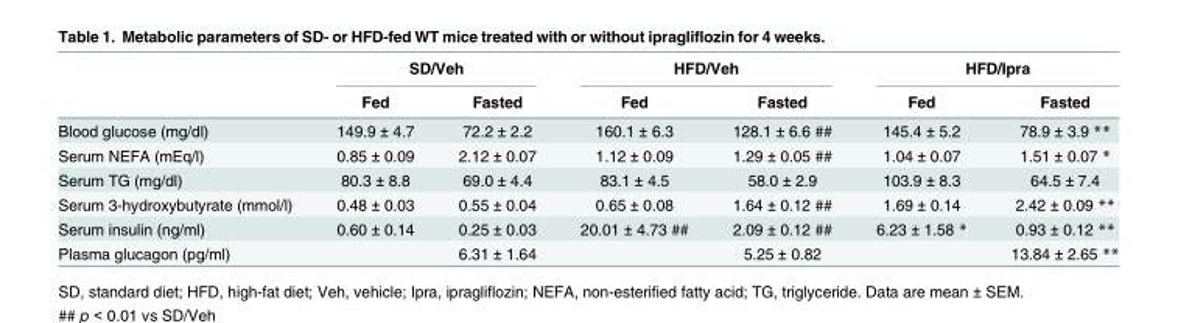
<table><thead><tr><td rowspan="2"></td><td colspan="2">SD/Veh</td><td colspan="2">HFD/Veh</td><td colspan="2">HFD/Ipra</td></tr><tr><td>Fed</td><td>Fasted</td><td>Fed</td><td>Fasted</td><td>Fed</td><td>Fasted</td></tr></thead><tbody><tr><td>Blood glucose (mg/dl)</td><td>149.9 ± 4.7</td><td>72.2 ± 2.2</td><td>160.1 ± 6.3</td><td>128.1 ± 6.6 ##</td><td>145.4 ± 5.2</td><td>78.9 ± 3.9 **</td></tr><tr><td>Serum NEFA (mEq/l)</td><td>0.85 ± 0.09</td><td>2.12 ± 0.07</td><td>1.12 ± 0.09</td><td>1.29 ± 0.05 ##</td><td>1.04 ± 0.07</td><td>1.51 ± 0.07 *</td></tr><tr><td>Serum TG (mg/dl)</td><td>80.3 ± 8.8</td><td>69.0 ± 4.4</td><td>83.1 ± 4.5</td><td>58.0 ± 2.9</td><td>103.9 ± 8.3</td><td>64.5 ± 7.4</td></tr><tr><td>Serum 3-hydroxybutyrate (mmol/l)</td><td>0.48 ± 0.03</td><td>0.55 ± 0.04</td><td>0.65 ± 0.08</td><td>1.64 ± 0.12 ##</td><td>1.69 ± 0.14</td><td>2.42 ± 0.09 **</td></tr><tr><td>Serum insulin (ng/ml)</td><td>0.60 ± 0.14</td><td>0.25 ± 0.03</td><td>20.01 ± 4.73 ##</td><td>2.09 ± 0.12 ##</td><td>6.23 ± 1.58 *</td><td>0.93 ± 0.12 **</td></tr><tr><td>Plasma glucagon (pg/ml)</td><td></td><td>6.31 ± 1.64</td><td></td><td>5.25 ± 0.82</td><td></td><td>13.84 ± 2.65 **</td></tr></tbody></table>